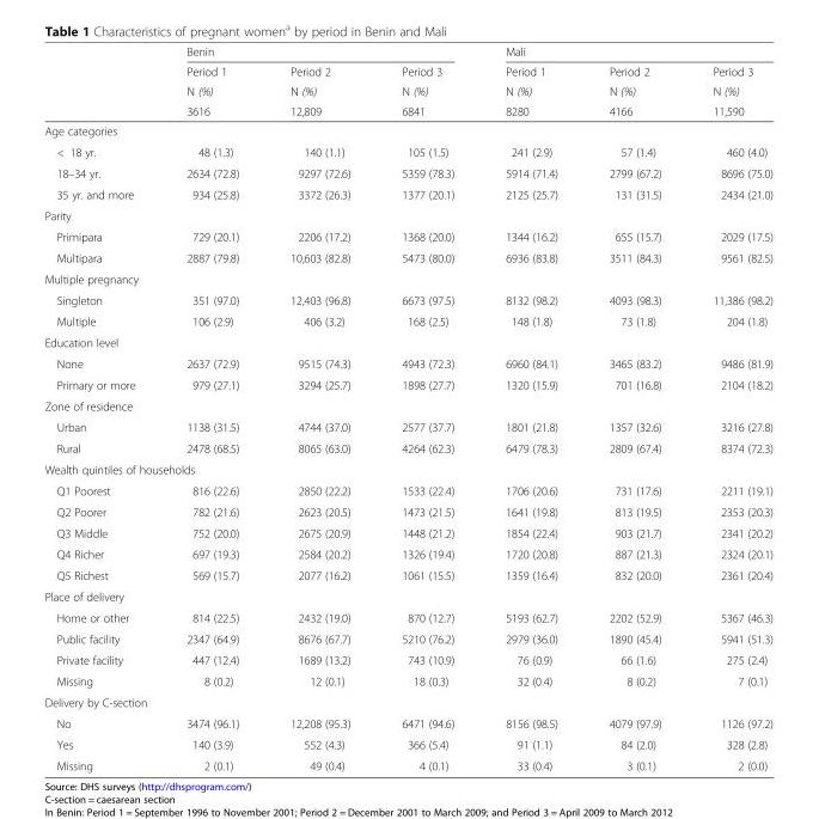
<table><thead><tr><td rowspan="4"></td><td colspan="3">Benin</td><td colspan="3">Mali</td></tr><tr><td rowspan="3">Period 1 N (%) 3616</td><td rowspan="3">Period 2 N (%) 12,809</td><td rowspan="3">Period 3 N (%) 6841</td><td rowspan="3">Period 1 N (%) 8280</td><td rowspan="3">Period 2 N (%) 4166</td><td rowspan="3">Period 3 N (%) 11,590</td></tr><tr></tr><tr></tr></thead><tbody><tr><td colspan="7">Age categories</td></tr><tr><td>&lt; 18 yr.</td><td>48 (1.3)</td><td>140 (1.1)</td><td>105 (1.5)</td><td>241 (2.9)</td><td>57 (1.4)</td><td>460 (4.0)</td></tr><tr><td>18–34 yr.</td><td>2634 (72.8)</td><td>9297 (72.6)</td><td>5359 (78.3)</td><td>5914 (71.4)</td><td>2799 (67.2)</td><td>8696 (75.0)</td></tr><tr><td>35 yr. and more</td><td>934 (25.8)</td><td>3372 (26.3)</td><td>1377 (20.1)</td><td>2125 (25.7)</td><td>131 (31.5)</td><td>2434 (21.0)</td></tr><tr><td colspan="7">Parity</td></tr><tr><td>Primipara</td><td>729 (20.1)</td><td>2206 (17.2)</td><td>1368 (20.0)</td><td>1344 (16.2)</td><td>655 (15.7)</td><td>2029 (17.5)</td></tr><tr><td>Multipara</td><td>2887 (79.8)</td><td>10,603 (82.8)</td><td>5473 (80.0)</td><td>6936 (83.8)</td><td>3511 (84.3)</td><td>9561 (82.5)</td></tr><tr><td colspan="7">Multiple pregnancy</td></tr><tr><td>Singleton</td><td>351 (97.0)</td><td>12,403 (96.8)</td><td>6673 (97.5)</td><td>8132 (98.2)</td><td>4093 (98.3)</td><td>11,386 (98.2)</td></tr><tr><td>Multiple</td><td>106 (2.9)</td><td>406 (3.2)</td><td>168 (2.5)</td><td>148 (1.8)</td><td>73 (1.8)</td><td>204 (1.8)</td></tr><tr><td colspan="7">Education level</td></tr><tr><td>None</td><td>2637 (72.9)</td><td>9515 (74.3)</td><td>4943 (72.3)</td><td>6960 (84.1)</td><td>3465 (83.2)</td><td>9486 (81.9)</td></tr><tr><td>Primary or more</td><td>979 (27.1)</td><td>3294 (25.7)</td><td>1898 (27.7)</td><td>1320 (15.9)</td><td>701 (16.8)</td><td>2104 (18.2)</td></tr><tr><td colspan="7">Zone of residence</td></tr><tr><td>Urban</td><td>1138 (31.5)</td><td>4744 (37.0)</td><td>2577 (37.7)</td><td>1801 (21.8)</td><td>1357 (32.6)</td><td>3216 (27.8)</td></tr><tr><td>Rural</td><td>2478 (68.5)</td><td>8065 (63.0)</td><td>4264 (62.3)</td><td>6479 (78.3)</td><td>2809 (67.4)</td><td>8374 (72.3)</td></tr><tr><td colspan="7">Wealth quintiles of households</td></tr><tr><td>Q1 Poorest</td><td>816 (22.6)</td><td>2850 (22.2)</td><td>1533 (22.4)</td><td>1706 (20.6)</td><td>731 (17.6)</td><td>2211 (19.1)</td></tr><tr><td>Q2 Poorer</td><td>782 (21.6)</td><td>2623 (20.5)</td><td>1473 (21.5)</td><td>1641 (19.8)</td><td>813 (19.5)</td><td>2353 (20.3)</td></tr><tr><td>Q3 Middle</td><td>752 (20.0)</td><td>2675 (20.9)</td><td>1448 (21.2)</td><td>1854 (22.4)</td><td>903 (21.7)</td><td>2341 (20.2)</td></tr><tr><td>Q4 Richer</td><td>697 (19.3)</td><td>2584 (20.2)</td><td>1326 (19.4)</td><td>1720 (20.8)</td><td>887 (21.3)</td><td>2324 (20.1)</td></tr><tr><td>Q5 Richest</td><td>569 (15.7)</td><td>2077 (16.2)</td><td>1061 (15.5)</td><td>1359 (16.4)</td><td>832 (20.0)</td><td>2361 (20.4)</td></tr><tr><td colspan="7">Place of delivery</td></tr><tr><td>Home or other</td><td>814 (22.5)</td><td>2432 (19.0)</td><td>870 (12.7)</td><td>5193 (62.7)</td><td>2202 (52.9)</td><td>5367 (46.3)</td></tr><tr><td>Public facility</td><td>2347 (64.9)</td><td>8676 (67.7)</td><td>5210 (76.2)</td><td>2979 (36.0)</td><td>1890 (45.4)</td><td>5941 (51.3)</td></tr><tr><td>Private facility</td><td>447 (12.4)</td><td>1689 (13.2)</td><td>743 (10.9)</td><td>76 (0.9)</td><td>66 (1.6)</td><td>275 (2.4)</td></tr><tr><td>Missing</td><td>8 (0.2)</td><td>12 (0.1)</td><td>18 (0.3)</td><td>32 (0.4)</td><td>8 (0.2)</td><td>7 (0.1)</td></tr><tr><td colspan="7">Delivery by C-section</td></tr><tr><td>No</td><td>3474 (96.1)</td><td>12,208 (95.3)</td><td>6471 (94.6)</td><td>8156 (98.5)</td><td>4079 (97.9)</td><td>1126 (97.2)</td></tr><tr><td>Yes</td><td>140 (3.9)</td><td>552 (4.3)</td><td>366 (5.4)</td><td>91 (1.1)</td><td>84 (2.0)</td><td>328 (2.8)</td></tr><tr><td>Missing</td><td>2 (0.1)</td><td>49 (0.4)</td><td>4 (0.1)</td><td>33 (0.4)</td><td>3 (0.1)</td><td>2 (0.0)</td></tr></tbody></table>